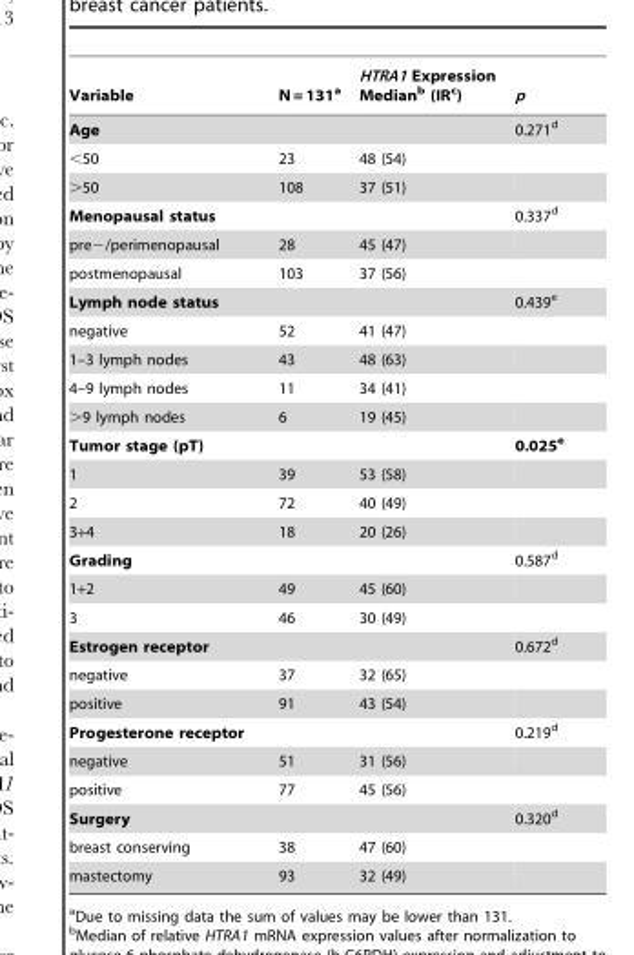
<table><thead><tr><td>Variable</td><td>N = 131<sup>a</sup></td><td>HTRA1 Expression Median<sup>b</sup> (IR<sup>c</sup>)</td><td>p</td></tr></thead><tbody><tr><td colspan="3">Age</td><td>0.271<sup>d</sup></td></tr><tr><td>&lt;50</td><td>23</td><td>48 (54)</td><td></td></tr><tr><td>&gt;50</td><td>108</td><td>37 (51)</td><td></td></tr><tr><td colspan="3">Menopausal status</td><td>0.337<sup>d</sup></td></tr><tr><td>pre−/perimenopausal</td><td>28</td><td>45 (47)</td><td></td></tr><tr><td>postmenopausal</td><td>103</td><td>37 (56)</td><td></td></tr><tr><td colspan="3">Lymph node status</td><td>0.439<sup>e</sup></td></tr><tr><td>negative</td><td>52</td><td>41 (47)</td><td></td></tr><tr><td>1–3 lymph nodes</td><td>43</td><td>48 (63)</td><td></td></tr><tr><td>4–9 lymph nodes</td><td>11</td><td>34 (41)</td><td></td></tr><tr><td>&gt;9 lymph nodes</td><td>6</td><td>19 (45)</td><td></td></tr><tr><td colspan="3">Tumor stage (pT)</td><td>0.025e</td></tr><tr><td>1</td><td>39</td><td>53 (58)</td><td></td></tr><tr><td>2</td><td>72</td><td>40 (49)</td><td></td></tr><tr><td>3+4</td><td>18</td><td>20 (26)</td><td></td></tr><tr><td colspan="3">Grading</td><td>0.587<sup>d</sup></td></tr><tr><td>1+2</td><td>49</td><td>45 (60)</td><td></td></tr><tr><td>3</td><td>46</td><td>30 (49)</td><td></td></tr><tr><td colspan="3">Estrogen receptor</td><td>0.672<sup>d</sup></td></tr><tr><td>negative</td><td>37</td><td>32 (65)</td><td></td></tr><tr><td>positive</td><td>91</td><td>43 (54)</td><td></td></tr><tr><td colspan="3">Progesterone receptor</td><td>0.219<sup>d</sup></td></tr><tr><td>negative</td><td>51</td><td>31 (56)</td><td></td></tr><tr><td>positive</td><td>77</td><td>45 (56)</td><td></td></tr><tr><td colspan="3">Surgery</td><td>0.320<sup>d</sup></td></tr><tr><td>breast conserving</td><td>38</td><td>47 (60)</td><td></td></tr><tr><td>mastectomy</td><td>93</td><td>32 (49)</td><td></td></tr></tbody></table>